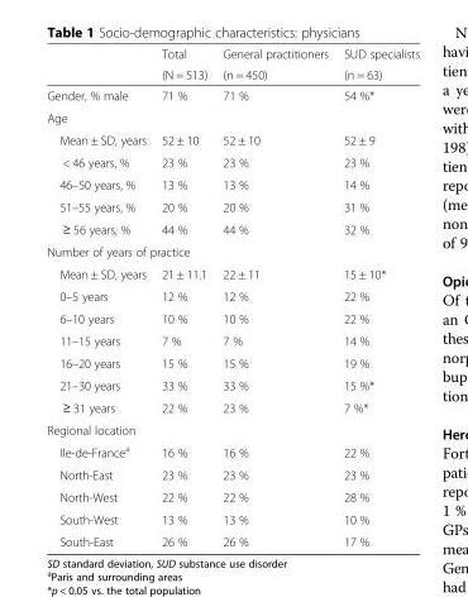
<table><thead><tr><td rowspan="2"></td><td rowspan="2">Total (N = 513)</td><td rowspan="2">General practitioners (n = 450)</td><td rowspan="2">SUD specialists (n = 63)</td></tr><tr></tr></thead><tbody><tr><td>Gender, % male</td><td>71 %</td><td>71 %</td><td>54 %*</td></tr><tr><td colspan="4">Age</td></tr><tr><td>Mean ± SD, years</td><td>52 ± 10</td><td>52 ± 10</td><td>52 ± 9</td></tr><tr><td>&lt; 46 years, %</td><td>23 %</td><td>23 %</td><td>23 %</td></tr><tr><td>46–50 years, %</td><td>13 %</td><td>13 %</td><td>14 %</td></tr><tr><td>51–55 years, %</td><td>20 %</td><td>20 %</td><td>31 %</td></tr><tr><td>≥ 56 years, %</td><td>44 %</td><td>44 %</td><td>32 %</td></tr><tr><td colspan="4">Number of years of practice</td></tr><tr><td>Mean ± SD, years</td><td>21 ± 11.1</td><td>22 ± 11</td><td>15 ± 10*</td></tr><tr><td>0–5 years</td><td>12 %</td><td>12 %</td><td>22 %</td></tr><tr><td>6–10 years</td><td>10 %</td><td>10 %</td><td>22 %</td></tr><tr><td>11–15 years</td><td>7 %</td><td>7 %</td><td>14 %</td></tr><tr><td>16–20 years</td><td>15 %</td><td>15 %</td><td>19 %</td></tr><tr><td>21–30 years</td><td>33 %</td><td>33 %</td><td>15 %*</td></tr><tr><td>≥ 31 years</td><td>22 %</td><td>23 %</td><td>7 %*</td></tr><tr><td colspan="4">Regional location</td></tr><tr><td>Ile-de-France<sup>a</sup></td><td>16 %</td><td>16 %</td><td>22 %</td></tr><tr><td>North-East</td><td>23 %</td><td>23 %</td><td>23 %</td></tr><tr><td>North-West</td><td>22 %</td><td>22 %</td><td>28 %</td></tr><tr><td>South-West</td><td>13 %</td><td>13 %</td><td>10 %</td></tr><tr><td>South-East</td><td>26 %</td><td>26 %</td><td>17 %</td></tr></tbody></table>